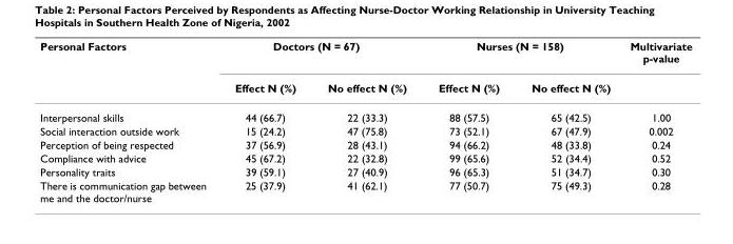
<table><thead><tr><td rowspan="2">Personal Factors</td><td colspan="2">Doctors (N = 67)</td><td colspan="2">Nurses (N = 158)</td><td rowspan="2">Multivariate p-value</td></tr><tr><td>Effect N (%)</td><td>No effect N (%)</td><td>Effect N (%)</td><td>No effect N (%)</td></tr></thead><tbody><tr><td>Interpersonal skills</td><td>44 (66.7)</td><td>22 (33.3)</td><td>88 (57.5)</td><td>65 (42.5)</td><td>1.00</td></tr><tr><td>Social interaction outside work</td><td>15 (24.2)</td><td>47 (75.8)</td><td>73 (52.1)</td><td>67 (47.9)</td><td>0.002</td></tr><tr><td>Perception of being respected</td><td>37 (56.9)</td><td>28 (43.1)</td><td>94 (66.2)</td><td>48 (33.8)</td><td>0.24</td></tr><tr><td>Compliance with advice</td><td>45 (67.2)</td><td>22 (32.8)</td><td>99 (65.6)</td><td>52 (34.4)</td><td>0.52</td></tr><tr><td>Personality traits</td><td>39 (59.1)</td><td>27 (40.9)</td><td>96 (65.3)</td><td>51 (34.7)</td><td>0.30</td></tr><tr><td>There is communication gap between me and the doctor/nurse</td><td>25 (37.9)</td><td>41 (62.1)</td><td>77 (50.7)</td><td>75 (49.3)</td><td>0.28</td></tr></tbody></table>